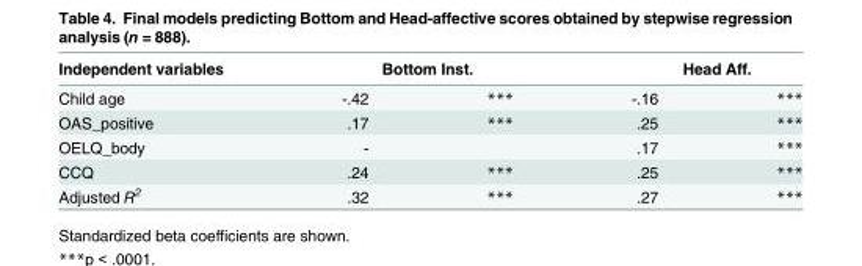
<table><thead><tr><td rowspan="2">Independent variables Child age</td><td colspan="2">Bottom Inst.</td><td colspan="2">Head Aff.</td></tr><tr><td>-.42</td><td>***</td><td>-.16</td><td>***</td></tr></thead><tbody><tr><td>OAS_positive</td><td>.17</td><td>***</td><td>.25</td><td>***</td></tr><tr><td>OELQ_body</td><td>-</td><td></td><td>.17</td><td>***</td></tr><tr><td>CCQ</td><td>.24</td><td>***</td><td>.25</td><td>***</td></tr><tr><td>Adjusted R<sup>2</sup></td><td>.32</td><td>***</td><td>.27</td><td>***</td></tr></tbody></table>